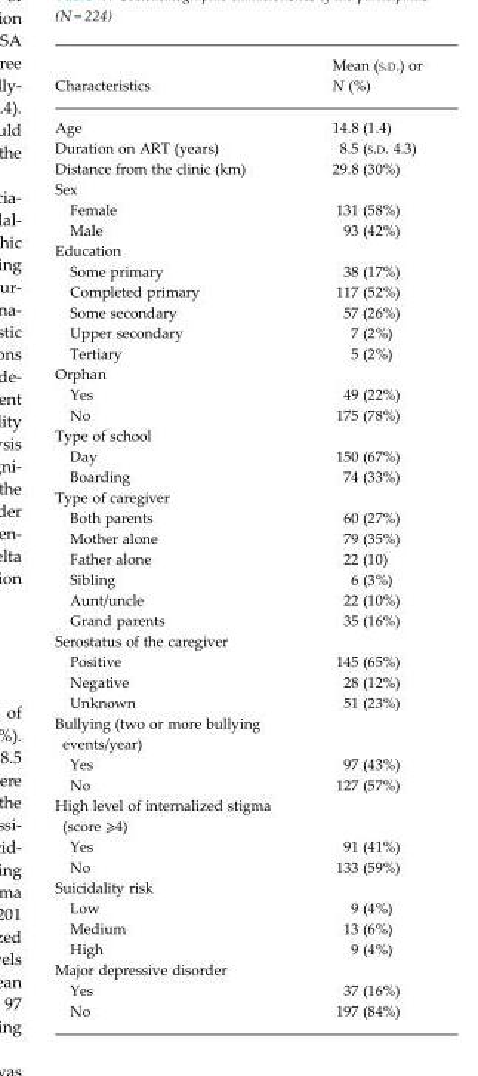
<table><thead><tr><td>Characteristics</td><td>Mean (S.D.) or N (%)</td></tr></thead><tbody><tr><td>Age</td><td>14.8 (1.4)</td></tr><tr><td>Duration on ART (years)</td><td>8.5 (S.D. 4.3)</td></tr><tr><td>Distance from the clinic (km)</td><td>29.8 (30%)</td></tr><tr><td colspan="2">Sex</td></tr><tr><td>Female</td><td>131 (58%)</td></tr><tr><td>Male</td><td>93 (42%)</td></tr><tr><td colspan="2">Education</td></tr><tr><td>Some primary</td><td>38 (17%)</td></tr><tr><td>Completed primary</td><td>117 (52%)</td></tr><tr><td>Some secondary</td><td>57 (26%)</td></tr><tr><td>Upper secondary</td><td>7 (2%)</td></tr><tr><td>Tertiary</td><td>5 (2%)</td></tr><tr><td colspan="2">Orphan</td></tr><tr><td>Yes</td><td>49 (22%)</td></tr><tr><td>No</td><td>175 (78%)</td></tr><tr><td colspan="2">Type of school</td></tr><tr><td>Day</td><td>150 (67%)</td></tr><tr><td>Boarding</td><td>74 (33%)</td></tr><tr><td colspan="2">Type of caregiver</td></tr><tr><td>Both parents</td><td>60 (27%)</td></tr><tr><td>Mother alone</td><td>79 (35%)</td></tr><tr><td>Father alone</td><td>22 (10)</td></tr><tr><td>Sibling</td><td>6 (3%)</td></tr><tr><td>Aunt/uncle</td><td>22 (10%)</td></tr><tr><td>Grand parents</td><td>35 (16%)</td></tr><tr><td colspan="2">Serostatus of the caregiver</td></tr><tr><td>Positive</td><td>145 (65%)</td></tr><tr><td>Negative</td><td>28 (12%)</td></tr><tr><td>Unknown</td><td>51 (23%)</td></tr><tr><td colspan="2">Bullying (two or more bullying events/year)</td></tr><tr><td>Yes</td><td>97 (43%)</td></tr><tr><td>No</td><td>127 (57%)</td></tr><tr><td colspan="2">High level of internalized stigma (score ⩾4)</td></tr><tr><td>Yes</td><td>91 (41%)</td></tr><tr><td>No</td><td>133 (59%)</td></tr><tr><td colspan="2">Suicidality risk</td></tr><tr><td>Low</td><td>9 (4%)</td></tr><tr><td>Medium</td><td>13 (6%)</td></tr><tr><td>High</td><td>9 (4%)</td></tr><tr><td colspan="2">Major depressive disorder</td></tr><tr><td>Yes</td><td>37 (16%)</td></tr><tr><td>No</td><td>197 (84%)</td></tr></tbody></table>